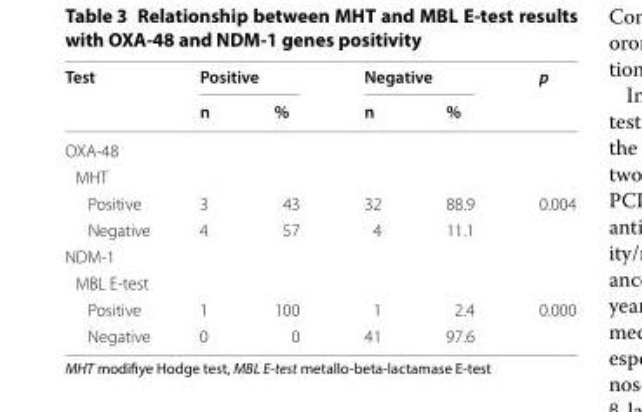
<table><thead><tr><td rowspan="2">Test</td><td colspan="2">Positive</td><td colspan="2">Negative</td><td rowspan="2">p</td></tr><tr><td>n</td><td>%</td><td>n</td><td>%</td></tr></thead><tbody><tr><td colspan="6">OXA-48</td></tr><tr><td colspan="6">MHT</td></tr><tr><td>Positive</td><td>3</td><td>43</td><td>32</td><td>88.9</td><td>0.004</td></tr><tr><td>Negative</td><td>4</td><td>57</td><td>4</td><td>11.1</td><td></td></tr><tr><td colspan="6">NDM-1</td></tr><tr><td colspan="6">MBL E-test</td></tr><tr><td>Positive</td><td>1</td><td>100</td><td>1</td><td>2.4</td><td>0.000</td></tr><tr><td>Negative</td><td>0</td><td>0</td><td>41</td><td>97.6</td><td></td></tr></tbody></table>